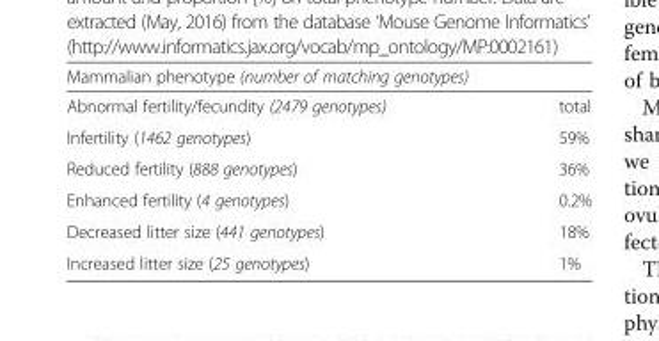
<table><thead><tr><td>Mammalian phenotype (number of matching genotypes)</td><td></td></tr></thead><tbody><tr><td>Abnormal fertility/fecundity (2479 genotypes)</td><td>total</td></tr><tr><td>Infertility (1462 genotypes)</td><td>59%</td></tr><tr><td>Reduced fertility (888 genotypes)</td><td>36%</td></tr><tr><td>Enhanced fertility (4 genotypes)</td><td>0.2%</td></tr><tr><td>Decreased litter size (441 genotypes)</td><td>18%</td></tr><tr><td>Increased litter size (25 genotypes)</td><td>1%</td></tr></tbody></table>